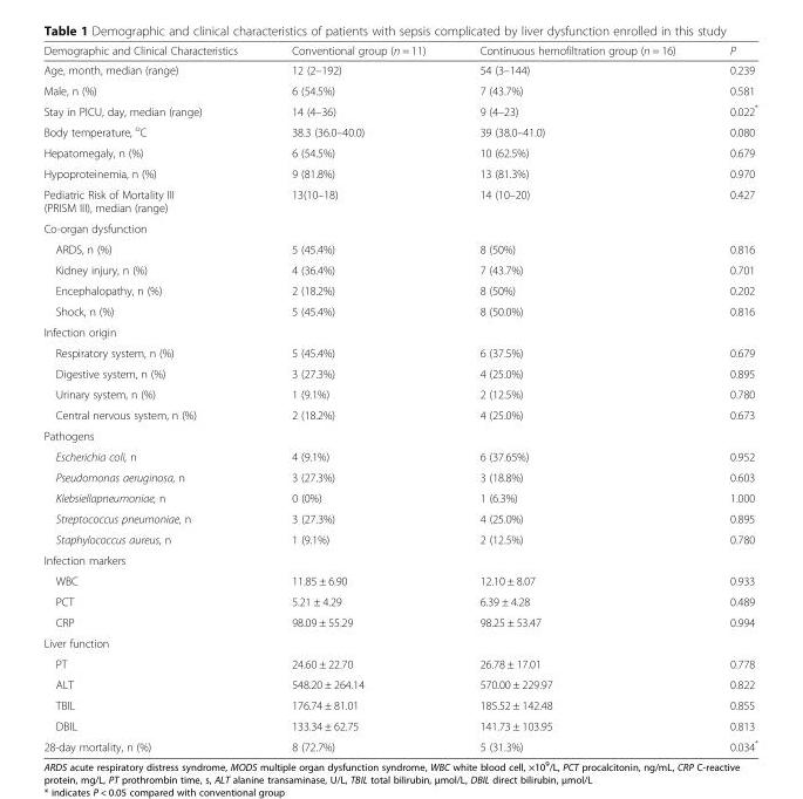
<table><thead><tr><td>Demographic and Clinical Characteristics</td><td>Conventional group (n = 11)</td><td>Continuous hemofiltration group (n = 16)</td><td>P</td></tr></thead><tbody><tr><td>Age, month, median (range)</td><td>12 (2–192)</td><td>54 (3–144)</td><td>0.239</td></tr><tr><td>Male, n (%)</td><td>6 (54.5%)</td><td>7 (43.7%)</td><td>0.581</td></tr><tr><td>Stay in PICU, day, median (range)</td><td>14 (4–36)</td><td>9 (4–23)</td><td>0.022*</td></tr><tr><td>Body temperature, <sup>o</sup>C</td><td>38.3 (36.0–40.0)</td><td>39 (38.0–41.0)</td><td>0.080</td></tr><tr><td>Hepatomegaly, n (%)</td><td>6 (54.5%)</td><td>10 (62.5%)</td><td>0.679</td></tr><tr><td>Hypoproteinemia, n (%)</td><td>9 (81.8%)</td><td>13 (81.3%)</td><td>0.970</td></tr><tr><td>Pediatric Risk of Mortality III (PRISM III), median (range)</td><td>13(10–18)</td><td>14 (10–20)</td><td>0.427</td></tr><tr><td colspan="4">Co-organ dysfunction</td></tr><tr><td>ARDS, n (%)</td><td>5 (45.4%)</td><td>8 (50%)</td><td>0.816</td></tr><tr><td>Kidney injury, n (%)</td><td>4 (36.4%)</td><td>7 (43.7%)</td><td>0.701</td></tr><tr><td>Encephalopathy, n (%)</td><td>2 (18.2%)</td><td>8 (50%)</td><td>0.202</td></tr><tr><td>Shock, n (%)</td><td>5 (45.4%)</td><td>8 (50.0%)</td><td>0.816</td></tr><tr><td colspan="4">Infection origin</td></tr><tr><td>Respiratory system, n (%)</td><td>5 (45.4%)</td><td>6 (37.5%)</td><td>0.679</td></tr><tr><td>Digestive system, n (%)</td><td>3 (27.3%)</td><td>4 (25.0%)</td><td>0.895</td></tr><tr><td>Urinary system, n (%)</td><td>1 (9.1%)</td><td>2 (12.5%)</td><td>0.780</td></tr><tr><td>Central nervous system, n (%)</td><td>2 (18.2%)</td><td>4 (25.0%)</td><td>0.673</td></tr><tr><td colspan="4">Pathogens</td></tr><tr><td>Escherichia coli, n</td><td>4 (9.1%)</td><td>6 (37.65%)</td><td>0.952</td></tr><tr><td>Pseudomonas aeruginosa, n</td><td>3 (27.3%)</td><td>3 (18.8%)</td><td>0.603</td></tr><tr><td>Klebsiellapneumoniae, n</td><td>0 (0%)</td><td>1 (6.3%)</td><td>1.000</td></tr><tr><td>Streptococcus pneumoniae, n</td><td>3 (27.3%)</td><td>4 (25.0%)</td><td>0.895</td></tr><tr><td>Staphylococcus aureus, n</td><td>1 (9.1%)</td><td>2 (12.5%)</td><td>0.780</td></tr><tr><td colspan="4">Infection markers</td></tr><tr><td>WBC</td><td>11.85 ± 6.90</td><td>12.10 ± 8.07</td><td>0.933</td></tr><tr><td>PCT</td><td>5.21 ± 4.29</td><td>6.39 ± 4.28</td><td>0.489</td></tr><tr><td>CRP</td><td>98.09 ± 55.29</td><td>98.25 ± 53.47</td><td>0.994</td></tr><tr><td colspan="4">Liver function</td></tr><tr><td>PT</td><td>24.60 ± 22.70</td><td>26.78 ± 17.01</td><td>0.778</td></tr><tr><td>ALT</td><td>548.20 ± 264.14</td><td>570.00 ± 229.97</td><td>0.822</td></tr><tr><td>TBIL</td><td>176.74 ± 81.01</td><td>185.52 ± 142.48</td><td>0.855</td></tr><tr><td>DBIL</td><td>133.34 ± 62.75</td><td>141.73 ± 103.95</td><td>0.813</td></tr><tr><td>28-day mortality, n (%)</td><td>8 (72.7%)</td><td>5 (31.3%)</td><td>0.034*</td></tr></tbody></table>